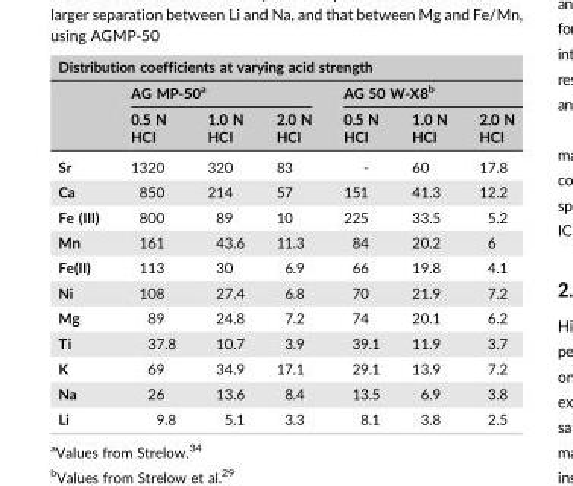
<table><thead><tr><td colspan="7">Distribution coefficients at varying acid strength</td></tr><tr><td rowspan="2"></td><td colspan="3">AG MP‐50<sup>a</sup></td><td colspan="3">AG 50 W‐X8<sup>b</sup></td></tr><tr><td>0.5 N HCI</td><td>1.0 N HCI</td><td>2.0 N HCI</td><td>0.5 N HCI</td><td>1.0 N HCI</td><td>2.0 N HCI</td></tr></thead><tbody><tr><td>Sr</td><td>1320</td><td>320</td><td>83</td><td>‐</td><td>60</td><td>17.8</td></tr><tr><td>Ca</td><td>850</td><td>214</td><td>57</td><td>151</td><td>41.3</td><td>12.2</td></tr><tr><td>Fe (III)</td><td>800</td><td>89</td><td>10</td><td>225</td><td>33.5</td><td>5.2</td></tr><tr><td>Mn</td><td>161</td><td>43.6</td><td>11.3</td><td>84</td><td>20.2</td><td>6</td></tr><tr><td>Fe(II)</td><td>113</td><td>30</td><td>6.9</td><td>66</td><td>19.8</td><td>4.1</td></tr><tr><td>Ni</td><td>108</td><td>27.4</td><td>6.8</td><td>70</td><td>21.9</td><td>7.2</td></tr><tr><td>Mg</td><td>89</td><td>24.8</td><td>7.2</td><td>74</td><td>20.1</td><td>6.2</td></tr><tr><td>Ti</td><td>37.8</td><td>10.7</td><td>3.9</td><td>39.1</td><td>11.9</td><td>3.7</td></tr><tr><td>K</td><td>69</td><td>34.9</td><td>17.1</td><td>29.1</td><td>13.9</td><td>7.2</td></tr><tr><td>Na</td><td>26</td><td>13.6</td><td>8.4</td><td>13.5</td><td>6.9</td><td>3.8</td></tr><tr><td>Li</td><td>9.8</td><td>5.1</td><td>3.3</td><td>8.1</td><td>3.8</td><td>2.5</td></tr></tbody></table>